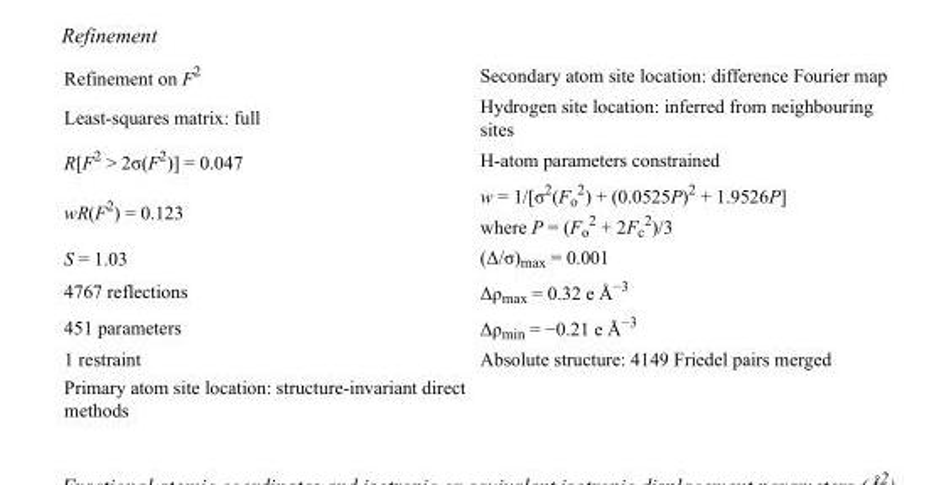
<table><tbody><tr><td>Refinement on F<sup>2</sup></td><td>Secondary atom site location: difference Fourier map</td></tr><tr><td>Least-squares matrix: full</td><td>Hydrogen site location: inferred from neighbouring sites</td></tr><tr><td>R[F<sup>2</sup> &gt; 2σ(F<sup>2</sup>)] = 0.047</td><td>H-atom parameters constrained</td></tr><tr><td>wR(F<sup>2</sup>) = 0.123</td><td>w = 1/[σ<sup>2</sup>(F<sub>o</sub> <sup>2</sup>) + (0.0525P)<sup>2</sup> + 1.9526P] where P = (F<sub>o</sub> <sup>2</sup> + 2F<sub>c</sub> <sup>2</sup>)/3</td></tr><tr><td>S = 1.03</td><td>(Δ/σ)<sub>max</sub> = 0.001</td></tr><tr><td>4767 reflections</td><td>Δρ<sub>max</sub> = 0.32 e Å<sup>−3</sup></td></tr><tr><td>451 parameters</td><td>Δρ<sub>min</sub> = −0.21 e Å<sup>−3</sup></td></tr><tr><td>1 restraint</td><td>Absolute structure: 4149 Friedel pairs merged</td></tr><tr><td>Primary atom site location: structure-invariant direct methods</td><td></td></tr></tbody></table>